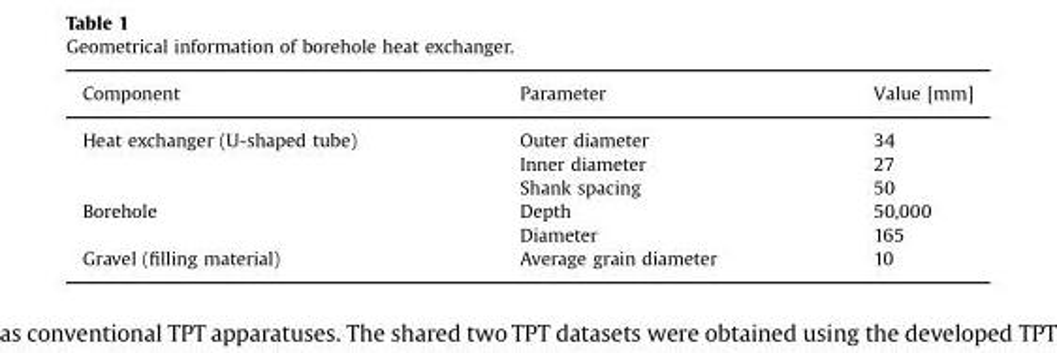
<table><thead><tr><td>Component</td><td>Parameter</td><td>Value [mm]</td></tr></thead><tbody><tr><td rowspan="3">Heat exchanger (U-shaped tube)</td><td>Outer diameter</td><td>34</td></tr><tr><td>Inner diameter</td><td>27</td></tr><tr><td>Shank spacing</td><td>50</td></tr><tr><td rowspan="2">Borehole</td><td>Depth</td><td>50,000</td></tr><tr><td>Diameter</td><td>165</td></tr><tr><td>Gravel (filling material)</td><td>Average grain diameter</td><td>10</td></tr></tbody></table>